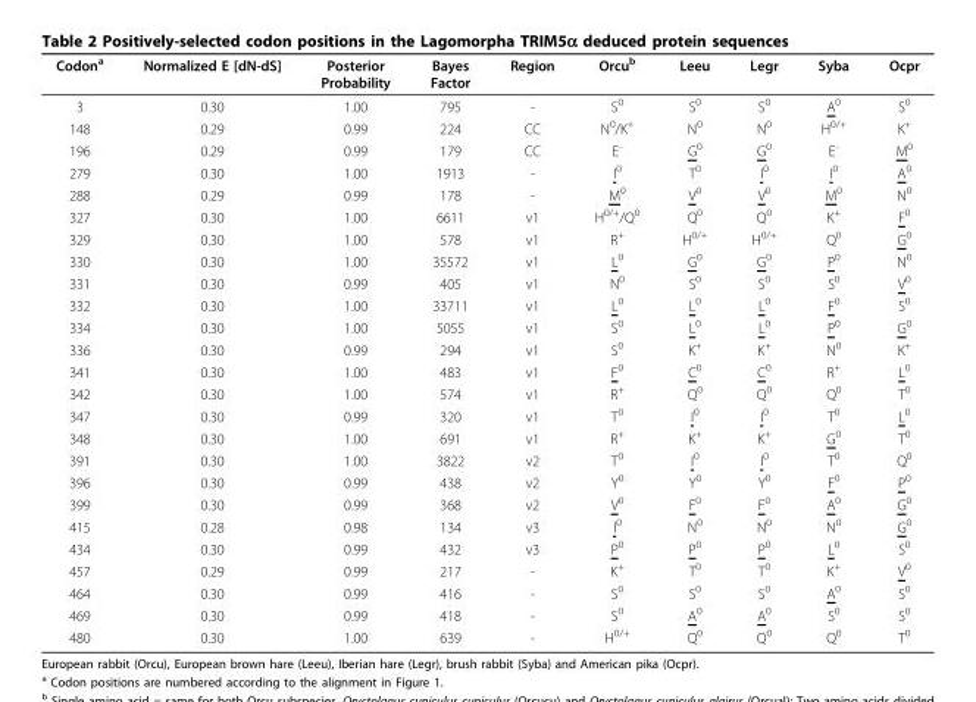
<table><thead><tr><td>Codon<sup>a</sup></td><td>Normalized E [dN-dS]</td><td>Posterior Probability</td><td>Bayes Factor</td><td>Region</td><td>Orcu<sup>b</sup></td><td>Leeu</td><td>Legr</td><td>Syba</td><td>Ocpr</td></tr></thead><tbody><tr><td>3</td><td>0.30</td><td>1.00</td><td>795</td><td>-</td><td>S<sup>0</sup></td><td>S<sup>0</sup></td><td>S<sup>0</sup></td><td>A<sup>0</sup></td><td>S<sup>0</sup></td></tr><tr><td>148</td><td>0.29</td><td>0.99</td><td>224</td><td>CC</td><td>N<sup>0</sup>/K<sup>+</sup></td><td>N<sup>0</sup></td><td>N<sup>0</sup></td><td>H<sup>0/+</sup></td><td>K<sup>+</sup></td></tr><tr><td>196</td><td>0.29</td><td>0.99</td><td>179</td><td>CC</td><td>E<sup>-</sup></td><td>G<sup>0</sup></td><td>G<sup>0</sup></td><td>E<sup>-</sup></td><td>M<sup>0</sup></td></tr><tr><td>279</td><td>0.30</td><td>1.00</td><td>1913</td><td>-</td><td>I<sup>0</sup></td><td>T<sup>0</sup></td><td>I<sup>0</sup></td><td>I<sup>0</sup></td><td>A<sup>0</sup></td></tr><tr><td>288</td><td>0.29</td><td>0.99</td><td>178</td><td>-</td><td>M<sup>0</sup></td><td>V<sup>0</sup></td><td>V<sup>0</sup></td><td>M<sup>0</sup></td><td>N<sup>0</sup></td></tr><tr><td>327</td><td>0.30</td><td>1.00</td><td>6611</td><td>v1</td><td>H<sup>0/+</sup>/Q<sup>0</sup></td><td>Q<sup>0</sup></td><td>Q<sup>0</sup></td><td>K<sup>+</sup></td><td>F<sup>0</sup></td></tr><tr><td>329</td><td>0.30</td><td>1.00</td><td>578</td><td>v1</td><td>R<sup>+</sup></td><td>H<sup>0/+</sup></td><td>H<sup>0/+</sup></td><td>Q<sup>0</sup></td><td>G<sup>0</sup></td></tr><tr><td>330</td><td>0.30</td><td>1.00</td><td>35572</td><td>v1</td><td>L<sup>0</sup></td><td>G<sup>0</sup></td><td>G<sup>0</sup></td><td>P<sup>0</sup></td><td>N<sup>0</sup></td></tr><tr><td>331</td><td>0.30</td><td>0.99</td><td>405</td><td>v1</td><td>N<sup>0</sup></td><td>S<sup>0</sup></td><td>S<sup>0</sup></td><td>S<sup>0</sup></td><td>V<sup>0</sup></td></tr><tr><td>332</td><td>0.30</td><td>1.00</td><td>33711</td><td>v1</td><td>L<sup>0</sup></td><td>L<sup>0</sup></td><td>L<sup>0</sup></td><td>F<sup>0</sup></td><td>S<sup>0</sup></td></tr><tr><td>334</td><td>0.30</td><td>1.00</td><td>5055</td><td>v1</td><td>S<sup>0</sup></td><td>L<sup>0</sup></td><td>L<sup>0</sup></td><td>P<sup>0</sup></td><td>G<sup>0</sup></td></tr><tr><td>336</td><td>0.30</td><td>0.99</td><td>294</td><td>v1</td><td>S<sup>0</sup></td><td>K<sup>+</sup></td><td>K<sup>+</sup></td><td>N<sup>0</sup></td><td>K<sup>+</sup></td></tr><tr><td>341</td><td>0.30</td><td>1.00</td><td>483</td><td>v1</td><td>F<sup>0</sup></td><td>C<sup>0</sup></td><td>C<sup>0</sup></td><td>R<sup>+</sup></td><td>L<sup>0</sup></td></tr><tr><td>342</td><td>0.30</td><td>1.00</td><td>574</td><td>v1</td><td>R<sup>+</sup></td><td>Q<sup>0</sup></td><td>Q<sup>0</sup></td><td>Q<sup>0</sup></td><td>T<sup>0</sup></td></tr><tr><td>347</td><td>0.30</td><td>0.99</td><td>320</td><td>v1</td><td>T<sup>0</sup></td><td>I<sup>0</sup></td><td>I<sup>0</sup></td><td>T<sup>0</sup></td><td>L<sup>0</sup></td></tr><tr><td>348</td><td>0.30</td><td>1.00</td><td>691</td><td>v1</td><td>R<sup>+</sup></td><td>K<sup>+</sup></td><td>K<sup>+</sup></td><td>G<sup>0</sup></td><td>T<sup>0</sup></td></tr><tr><td>391</td><td>0.30</td><td>1.00</td><td>3822</td><td>v2</td><td>T<sup>0</sup></td><td>I<sup>0</sup></td><td>I<sup>0</sup></td><td>T<sup>0</sup></td><td>Q<sup>0</sup></td></tr><tr><td>396</td><td>0.30</td><td>0.99</td><td>438</td><td>v2</td><td>Y<sup>0</sup></td><td>Y<sup>0</sup></td><td>Y<sup>0</sup></td><td>F<sup>0</sup></td><td>P<sup>0</sup></td></tr><tr><td>399</td><td>0.30</td><td>0.99</td><td>368</td><td>v2</td><td>V<sup>0</sup></td><td>F<sup>0</sup></td><td>F<sup>0</sup></td><td>A<sup>0</sup></td><td>G<sup>0</sup></td></tr><tr><td>415</td><td>0.28</td><td>0.98</td><td>134</td><td>v3</td><td>I<sup>0</sup></td><td>N<sup>0</sup></td><td>N<sup>0</sup></td><td>N<sup>0</sup></td><td>G<sup>0</sup></td></tr><tr><td>434</td><td>0.30</td><td>0.99</td><td>432</td><td>v3</td><td>P<sup>0</sup></td><td>P<sup>0</sup></td><td>P<sup>0</sup></td><td>L<sup>0</sup></td><td>S<sup>0</sup></td></tr><tr><td>457</td><td>0.29</td><td>0.99</td><td>217</td><td>-</td><td>K<sup>+</sup></td><td>T<sup>0</sup></td><td>T<sup>0</sup></td><td>K<sup>+</sup></td><td>V<sup>0</sup></td></tr><tr><td>464</td><td>0.30</td><td>0.99</td><td>416</td><td>-</td><td>S<sup>0</sup></td><td>S<sup>0</sup></td><td>S<sup>0</sup></td><td>A<sup>0</sup></td><td>S<sup>0</sup></td></tr><tr><td>469</td><td>0.30</td><td>0.99</td><td>418</td><td>-</td><td>S<sup>0</sup></td><td>A<sup>0</sup></td><td>A<sup>0</sup></td><td>S<sup>0</sup></td><td>S<sup>0</sup></td></tr><tr><td>480</td><td>0.30</td><td>1.00</td><td>639</td><td>-</td><td>H<sup>0/+</sup></td><td>Q<sup>0</sup></td><td>Q<sup>0</sup></td><td>Q<sup>0</sup></td><td>T<sup>0</sup></td></tr></tbody></table>